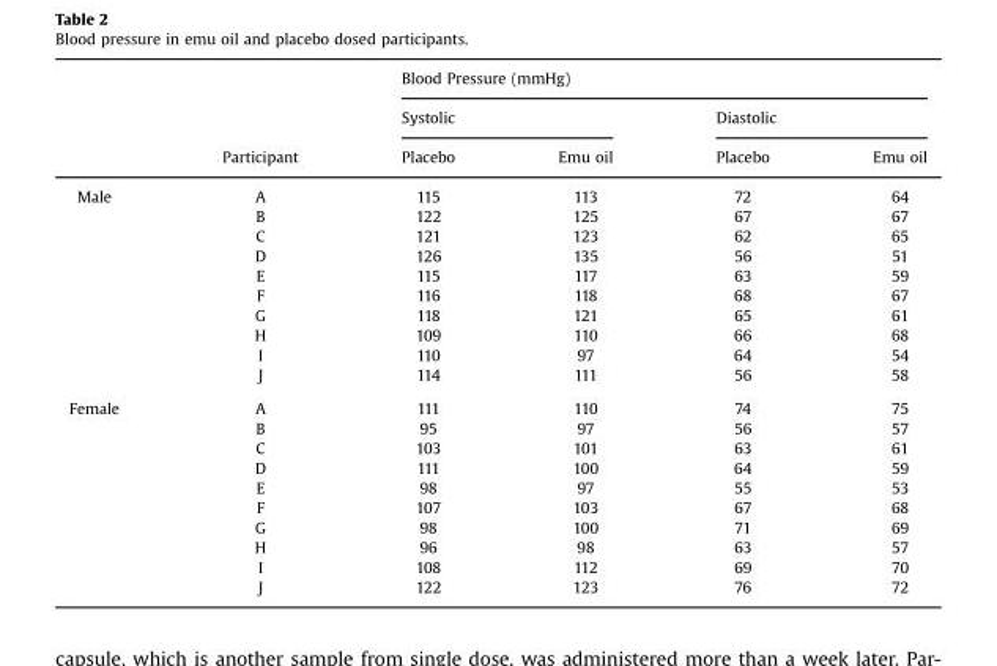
<table><thead><tr><td rowspan="3"></td><td rowspan="3">Participant</td><td colspan="4">Blood Pressure (mmHg)</td></tr><tr><td colspan="2">Systolic</td><td colspan="2">Diastolic</td></tr><tr><td>Placebo</td><td>Emu oil</td><td>Placebo</td><td>Emu oil</td></tr></thead><tbody><tr><td rowspan="10">Male</td><td>A</td><td>115</td><td>113</td><td>72</td><td>64</td></tr><tr><td>B</td><td>122</td><td>125</td><td>67</td><td>67</td></tr><tr><td>C</td><td>121</td><td>123</td><td>62</td><td>65</td></tr><tr><td>D</td><td>126</td><td>135</td><td>56</td><td>51</td></tr><tr><td>E</td><td>115</td><td>117</td><td>63</td><td>59</td></tr><tr><td>F</td><td>116</td><td>118</td><td>68</td><td>67</td></tr><tr><td>G</td><td>118</td><td>121</td><td>65</td><td>61</td></tr><tr><td>H</td><td>109</td><td>110</td><td>66</td><td>68</td></tr><tr><td>I</td><td>110</td><td>97</td><td>64</td><td>54</td></tr><tr><td>J</td><td>114</td><td>111</td><td>56</td><td>58</td></tr><tr><td rowspan="10">Female</td><td>A</td><td>111</td><td>110</td><td>74</td><td>75</td></tr><tr><td>B</td><td>95</td><td>97</td><td>56</td><td>57</td></tr><tr><td>C</td><td>103</td><td>101</td><td>63</td><td>61</td></tr><tr><td>D</td><td>111</td><td>100</td><td>64</td><td>59</td></tr><tr><td>E</td><td>98</td><td>97</td><td>55</td><td>53</td></tr><tr><td>F</td><td>107</td><td>103</td><td>67</td><td>68</td></tr><tr><td>G</td><td>98</td><td>100</td><td>71</td><td>69</td></tr><tr><td>H</td><td>96</td><td>98</td><td>63</td><td>57</td></tr><tr><td>I</td><td>108</td><td>112</td><td>69</td><td>70</td></tr><tr><td>J</td><td>122</td><td>123</td><td>76</td><td>72</td></tr></tbody></table>